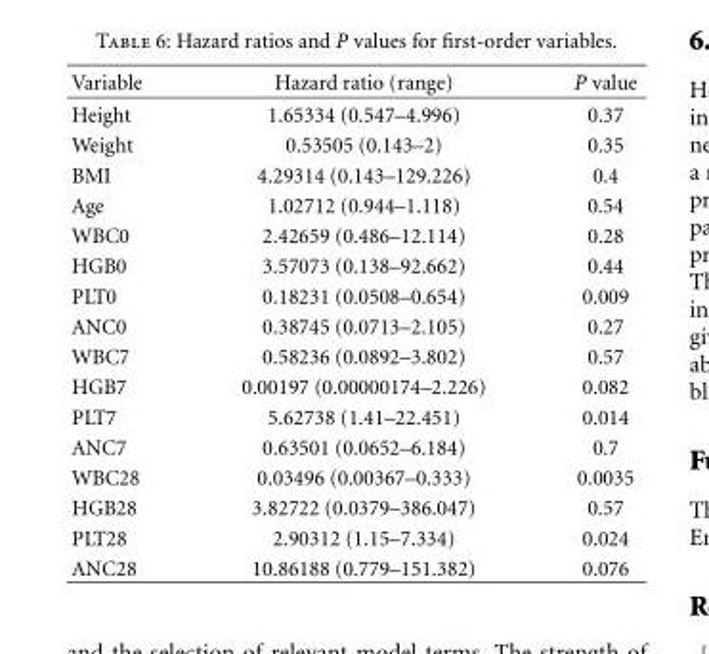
<table><thead><tr><td>Variable</td><td>Hazard ratio (range)</td><td>P value</td></tr></thead><tbody><tr><td>Height</td><td>1.65334 (0.547–4.996)</td><td>0.37</td></tr><tr><td>Weight</td><td>0.53505 (0.143–2)</td><td>0.35</td></tr><tr><td>BMI</td><td>4.29314 (0.143–129.226)</td><td>0.4</td></tr><tr><td>Age</td><td>1.02712 (0.944–1.118)</td><td>0.54</td></tr><tr><td>WBC0</td><td>2.42659 (0.486–12.114)</td><td>0.28</td></tr><tr><td>HGB0</td><td>3.57073 (0.138–92.662)</td><td>0.44</td></tr><tr><td>PLT0</td><td>0.18231 (0.0508–0.654)</td><td>0.009</td></tr><tr><td>ANC0</td><td>0.38745 (0.0713–2.105)</td><td>0.27</td></tr><tr><td>WBC7</td><td>0.58236 (0.0892–3.802)</td><td>0.57</td></tr><tr><td>HGB7</td><td>0.00197 (0.00000174–2.226)</td><td>0.082</td></tr><tr><td>PLT7</td><td>5.62738 (1.41–22.451)</td><td>0.014</td></tr><tr><td>ANC7</td><td>0.63501 (0.0652–6.184)</td><td>0.7</td></tr><tr><td>WBC28</td><td>0.03496 (0.00367–0.333)</td><td>0.0035</td></tr><tr><td>HGB28</td><td>3.82722 (0.0379–386.047)</td><td>0.57</td></tr><tr><td>PLT28</td><td>2.90312 (1.15–7.334)</td><td>0.024</td></tr><tr><td>ANC28</td><td>10.86188 (0.779–151.382)</td><td>0.076</td></tr></tbody></table>